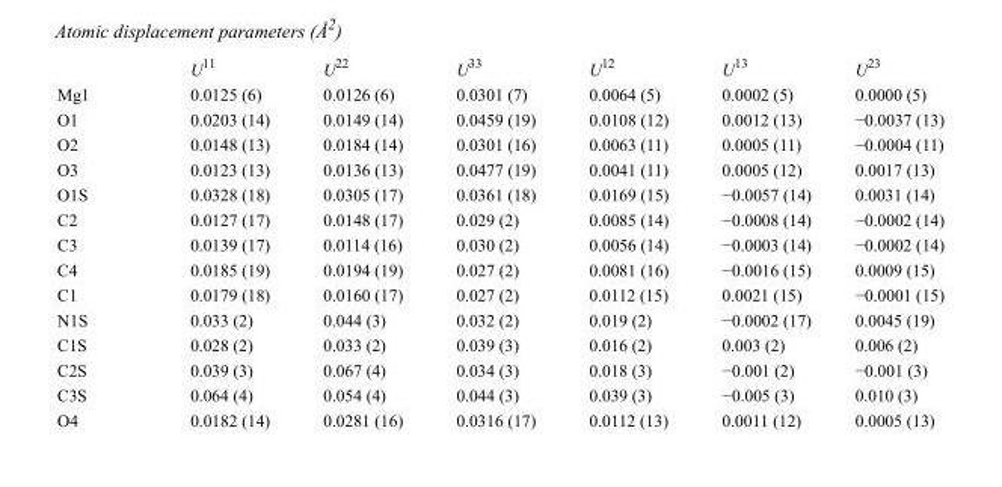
<table><thead><tr><td></td><td>U<sup>11</sup></td><td>U<sup>22</sup></td><td>U<sup>33</sup></td><td>U<sup>12</sup></td><td>U<sup>13</sup></td><td>U<sup>23</sup></td></tr></thead><tbody><tr><td>Mg1</td><td>0.0125 (6)</td><td>0.0126 (6)</td><td>0.0301 (7)</td><td>0.0064 (5)</td><td>0.0002 (5)</td><td>0.0000 (5)</td></tr><tr><td>O1</td><td>0.0203 (14)</td><td>0.0149 (14)</td><td>0.0459 (19)</td><td>0.0108 (12)</td><td>0.0012 (13)</td><td>−0.0037 (13)</td></tr><tr><td>O2</td><td>0.0148 (13)</td><td>0.0184 (14)</td><td>0.0301 (16)</td><td>0.0063 (11)</td><td>0.0005 (11)</td><td>−0.0004 (11)</td></tr><tr><td>O3</td><td>0.0123 (13)</td><td>0.0136 (13)</td><td>0.0477 (19)</td><td>0.0041 (11)</td><td>0.0005 (12)</td><td>0.0017 (13)</td></tr><tr><td>O1S</td><td>0.0328 (18)</td><td>0.0305 (17)</td><td>0.0361 (18)</td><td>0.0169 (15)</td><td>−0.0057 (14)</td><td>0.0031 (14)</td></tr><tr><td>C2</td><td>0.0127 (17)</td><td>0.0148 (17)</td><td>0.029 (2)</td><td>0.0085 (14)</td><td>−0.0008 (14)</td><td>−0.0002 (14)</td></tr><tr><td>C3</td><td>0.0139 (17)</td><td>0.0114 (16)</td><td>0.030 (2)</td><td>0.0056 (14)</td><td>−0.0003 (14)</td><td>−0.0002 (14)</td></tr><tr><td>C4</td><td>0.0185 (19)</td><td>0.0194 (19)</td><td>0.027 (2)</td><td>0.0081 (16)</td><td>−0.0016 (15)</td><td>0.0009 (15)</td></tr><tr><td>C1</td><td>0.0179 (18)</td><td>0.0160 (17)</td><td>0.027 (2)</td><td>0.0112 (15)</td><td>0.0021 (15)</td><td>−0.0001 (15)</td></tr><tr><td>N1S</td><td>0.033 (2)</td><td>0.044 (3)</td><td>0.032 (2)</td><td>0.019 (2)</td><td>−0.0002 (17)</td><td>0.0045 (19)</td></tr><tr><td>C1S</td><td>0.028 (2)</td><td>0.033 (2)</td><td>0.039 (3)</td><td>0.016 (2)</td><td>0.003 (2)</td><td>0.006 (2)</td></tr><tr><td>C2S</td><td>0.039 (3)</td><td>0.067 (4)</td><td>0.034 (3)</td><td>0.018 (3)</td><td>−0.001 (2)</td><td>−0.001 (3)</td></tr><tr><td>C3S</td><td>0.064 (4)</td><td>0.054 (4)</td><td>0.044 (3)</td><td>0.039 (3)</td><td>−0.005 (3)</td><td>0.010 (3)</td></tr><tr><td>O4</td><td>0.0182 (14)</td><td>0.0281 (16)</td><td>0.0316 (17)</td><td>0.0112 (13)</td><td>0.0011 (12)</td><td>0.0005 (13)</td></tr></tbody></table>